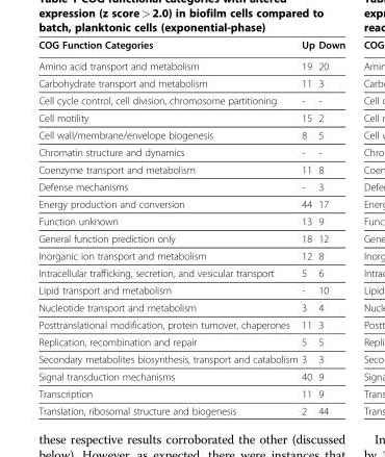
<table><thead><tr><td>COG Function Categories</td><td>Up</td><td>Down</td></tr></thead><tbody><tr><td>Amino acid transport and metabolism</td><td>19</td><td>20</td></tr><tr><td>Carbohydrate transport and metabolism</td><td>11</td><td>3</td></tr><tr><td>Cell cycle control, cell division, chromosome partitioning</td><td>-</td><td>-</td></tr><tr><td>Cell motility</td><td>15</td><td>2</td></tr><tr><td>Cell wall/membrane/envelope biogenesis</td><td>8</td><td>5</td></tr><tr><td>Chromatin structure and dynamics</td><td>-</td><td>-</td></tr><tr><td>Coenzyme transport and metabolism</td><td>11</td><td>8</td></tr><tr><td>Defense mechanisms</td><td>-</td><td>3</td></tr><tr><td>Energy production and conversion</td><td>44</td><td>17</td></tr><tr><td>Function unknown</td><td>13</td><td>9</td></tr><tr><td>General function prediction only</td><td>18</td><td>12</td></tr><tr><td>Inorganic ion transport and metabolism</td><td>12</td><td>8</td></tr><tr><td>Intracellular trafficking, secretion, and vesicular transport</td><td>5</td><td>6</td></tr><tr><td>Lipid transport and metabolism</td><td>-</td><td>10</td></tr><tr><td>Nucleotide transport and metabolism</td><td>3</td><td>4</td></tr><tr><td>Posttranslational modification, protein turnover, chaperones</td><td>11</td><td>3</td></tr><tr><td>Replication, recombination and repair</td><td>5</td><td>5</td></tr><tr><td>Secondary metabolites biosynthesis, transport and catabolism</td><td>3</td><td>3</td></tr><tr><td>Signal transduction mechanisms</td><td>40</td><td>9</td></tr><tr><td>Transcription</td><td>11</td><td>9</td></tr><tr><td>Translation, ribosomal structure and biogenesis</td><td>2</td><td>44</td></tr></tbody></table>